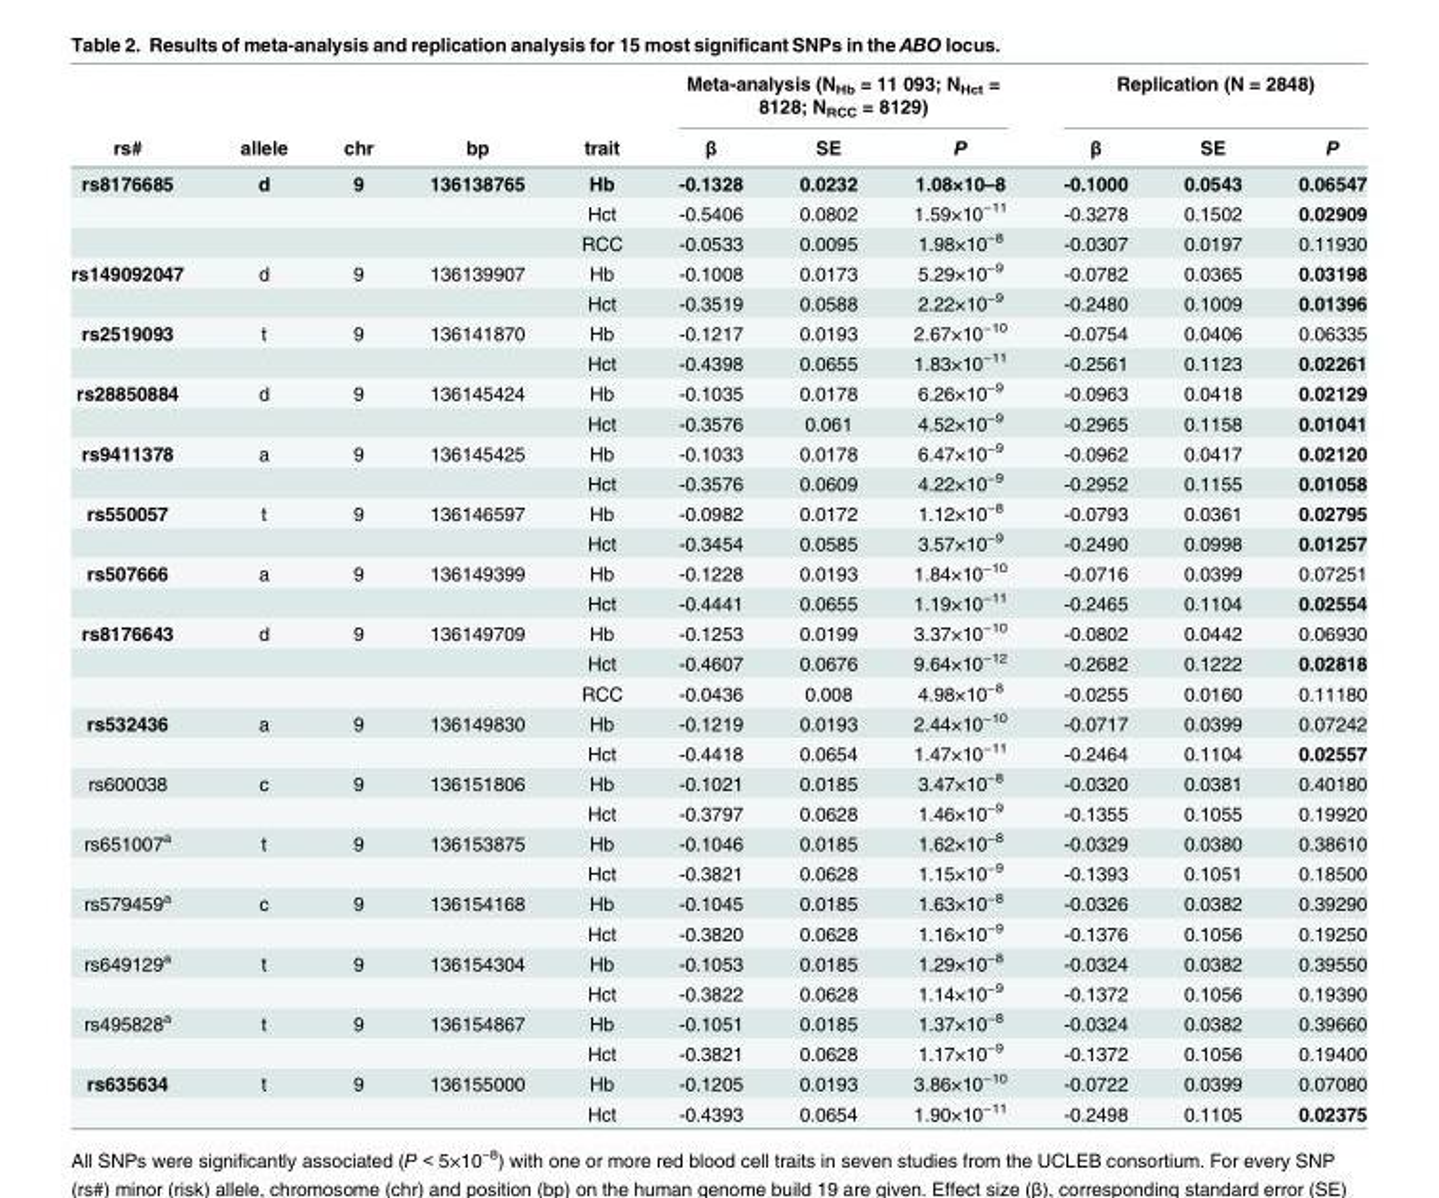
<table><thead><tr><td rowspan="2">rs#</td><td rowspan="2">allele</td><td rowspan="2">chr</td><td rowspan="2">bp</td><td rowspan="2">trait</td><td colspan="3">Meta-analysis (N<sub>Hb</sub> = 11 093; N<sub>Hct</sub> = 8128; N<sub>RCC</sub> = 8129)</td><td colspan="3">Replication (N = 2848)</td></tr><tr><td>β</td><td>SE</td><td>P</td><td>β</td><td>SE</td><td>P</td></tr></thead><tbody><tr><td rowspan="3">rs8176685</td><td>d</td><td>9</td><td>136138765</td><td>Hb</td><td>-0.1328</td><td>0.0232</td><td>1.08×10–8</td><td>-0.1000</td><td>0.0543</td><td>0.06547</td></tr><tr><td></td><td></td><td></td><td>Hct</td><td>-0.5406</td><td>0.0802</td><td>1.59×10<sup>−11</sup></td><td>-0.3278</td><td>0.1502</td><td>0.02909</td></tr><tr><td></td><td></td><td></td><td>RCC</td><td>-0.0533</td><td>0.0095</td><td>1.98×10<sup>−8</sup></td><td>-0.0307</td><td>0.0197</td><td>0.11930</td></tr><tr><td rowspan="2">rs149092047</td><td>d</td><td>9</td><td>136139907</td><td>Hb</td><td>-0.1008</td><td>0.0173</td><td>5.29×10<sup>−9</sup></td><td>-0.0782</td><td>0.0365</td><td>0.03198</td></tr><tr><td></td><td></td><td></td><td>Hct</td><td>-0.3519</td><td>0.0588</td><td>2.22×10<sup>−9</sup></td><td>-0.2480</td><td>0.1009</td><td>0.01396</td></tr><tr><td rowspan="2">rs2519093</td><td>t</td><td>9</td><td>136141870</td><td>Hb</td><td>-0.1217</td><td>0.0193</td><td>2.67×10<sup>−10</sup></td><td>-0.0754</td><td>0.0406</td><td>0.06335</td></tr><tr><td></td><td></td><td></td><td>Hct</td><td>-0.4398</td><td>0.0655</td><td>1.83×10<sup>−11</sup></td><td>-0.2561</td><td>0.1123</td><td>0.02261</td></tr><tr><td rowspan="2">rs28850884</td><td>d</td><td>9</td><td>136145424</td><td>Hb</td><td>-0.1035</td><td>0.0178</td><td>6.26×10<sup>−9</sup></td><td>-0.0963</td><td>0.0418</td><td>0.02129</td></tr><tr><td></td><td></td><td></td><td>Hct</td><td>-0.3576</td><td>0.061</td><td>4.52×10<sup>−9</sup></td><td>-0.2965</td><td>0.1158</td><td>0.01041</td></tr><tr><td rowspan="2">rs9411378</td><td>a</td><td>9</td><td>136145425</td><td>Hb</td><td>-0.1033</td><td>0.0178</td><td>6.47×10<sup>−9</sup></td><td>-0.0962</td><td>0.0417</td><td>0.02120</td></tr><tr><td></td><td></td><td></td><td>Hct</td><td>-0.3576</td><td>0.0609</td><td>4.22×10<sup>−9</sup></td><td>-0.2952</td><td>0.1155</td><td>0.01058</td></tr><tr><td rowspan="2">rs550057</td><td>t</td><td>9</td><td>136146597</td><td>Hb</td><td>-0.0982</td><td>0.0172</td><td>1.12×10<sup>−8</sup></td><td>-0.0793</td><td>0.0361</td><td>0.02795</td></tr><tr><td></td><td></td><td></td><td>Hct</td><td>-0.3454</td><td>0.0585</td><td>3.57×10<sup>−9</sup></td><td>-0.2490</td><td>0.0998</td><td>0.01257</td></tr><tr><td rowspan="2">rs507666</td><td>a</td><td>9</td><td>136149399</td><td>Hb</td><td>-0.1228</td><td>0.0193</td><td>1.84×10<sup>−10</sup></td><td>-0.0716</td><td>0.0399</td><td>0.07251</td></tr><tr><td></td><td></td><td></td><td>Hct</td><td>-0.4441</td><td>0.0655</td><td>1.19×10<sup>−11</sup></td><td>-0.2465</td><td>0.1104</td><td>0.02554</td></tr><tr><td rowspan="3">rs8176643</td><td>d</td><td>9</td><td>136149709</td><td>Hb</td><td>-0.1253</td><td>0.0199</td><td>3.37×10<sup>−10</sup></td><td>-0.0802</td><td>0.0442</td><td>0.06930</td></tr><tr><td></td><td></td><td></td><td>Hct</td><td>-0.4607</td><td>0.0676</td><td>9.64×10<sup>−12</sup></td><td>-0.2682</td><td>0.1222</td><td>0.02818</td></tr><tr><td></td><td></td><td></td><td>RCC</td><td>-0.0436</td><td>0.008</td><td>4.98×10<sup>−8</sup></td><td>-0.0255</td><td>0.0160</td><td>0.11180</td></tr><tr><td rowspan="2">rs532436</td><td>a</td><td>9</td><td>136149830</td><td>Hb</td><td>-0.1219</td><td>0.0193</td><td>2.44×10<sup>−10</sup></td><td>-0.0717</td><td>0.0399</td><td>0.07242</td></tr><tr><td></td><td></td><td></td><td>Hct</td><td>-0.4418</td><td>0.0654</td><td>1.47×10<sup>−11</sup></td><td>-0.2464</td><td>0.1104</td><td>0.02557</td></tr><tr><td rowspan="2">rs600038</td><td>c</td><td>9</td><td>136151806</td><td>Hb</td><td>-0.1021</td><td>0.0185</td><td>3.47×10<sup>−8</sup></td><td>-0.0320</td><td>0.0381</td><td>0.40180</td></tr><tr><td></td><td></td><td></td><td>Hct</td><td>-0.3797</td><td>0.0628</td><td>1.46×10<sup>−9</sup></td><td>-0.1355</td><td>0.1055</td><td>0.19920</td></tr><tr><td rowspan="2">rs651007<sup>a</sup></td><td>t</td><td>9</td><td>136153875</td><td>Hb</td><td>-0.1046</td><td>0.0185</td><td>1.62×10<sup>−8</sup></td><td>-0.0329</td><td>0.0380</td><td>0.38610</td></tr><tr><td></td><td></td><td></td><td>Hct</td><td>-0.3821</td><td>0.0628</td><td>1.15×10<sup>−9</sup></td><td>-0.1393</td><td>0.1051</td><td>0.18500</td></tr><tr><td rowspan="2">rs579459<sup>a</sup></td><td>c</td><td>9</td><td>136154168</td><td>Hb</td><td>-0.1045</td><td>0.0185</td><td>1.63×10<sup>−8</sup></td><td>-0.0326</td><td>0.0382</td><td>0.39290</td></tr><tr><td></td><td></td><td></td><td>Hct</td><td>-0.3820</td><td>0.0628</td><td>1.16×10<sup>−9</sup></td><td>-0.1376</td><td>0.1056</td><td>0.19250</td></tr><tr><td rowspan="2">rs649129<sup>a</sup></td><td>t</td><td>9</td><td>136154304</td><td>Hb</td><td>-0.1053</td><td>0.0185</td><td>1.29×10<sup>−8</sup></td><td>-0.0324</td><td>0.0382</td><td>0.39550</td></tr><tr><td></td><td></td><td></td><td>Hct</td><td>-0.3822</td><td>0.0628</td><td>1.14×10<sup>−9</sup></td><td>-0.1372</td><td>0.1056</td><td>0.19390</td></tr><tr><td rowspan="2">rs495828<sup>a</sup></td><td>t</td><td>9</td><td>136154867</td><td>Hb</td><td>-0.1051</td><td>0.0185</td><td>1.37×10<sup>−8</sup></td><td>-0.0324</td><td>0.0382</td><td>0.39660</td></tr><tr><td></td><td></td><td></td><td>Hct</td><td>-0.3821</td><td>0.0628</td><td>1.17×10<sup>−9</sup></td><td>-0.1372</td><td>0.1056</td><td>0.19400</td></tr><tr><td rowspan="2">rs635634</td><td>t</td><td>9</td><td>136155000</td><td>Hb</td><td>-0.1205</td><td>0.0193</td><td>3.86×10<sup>−10</sup></td><td>-0.0722</td><td>0.0399</td><td>0.07080</td></tr><tr><td></td><td></td><td></td><td>Hct</td><td>-0.4393</td><td>0.0654</td><td>1.90×10<sup>−11</sup></td><td>-0.2498</td><td>0.1105</td><td>0.02375</td></tr></tbody></table>